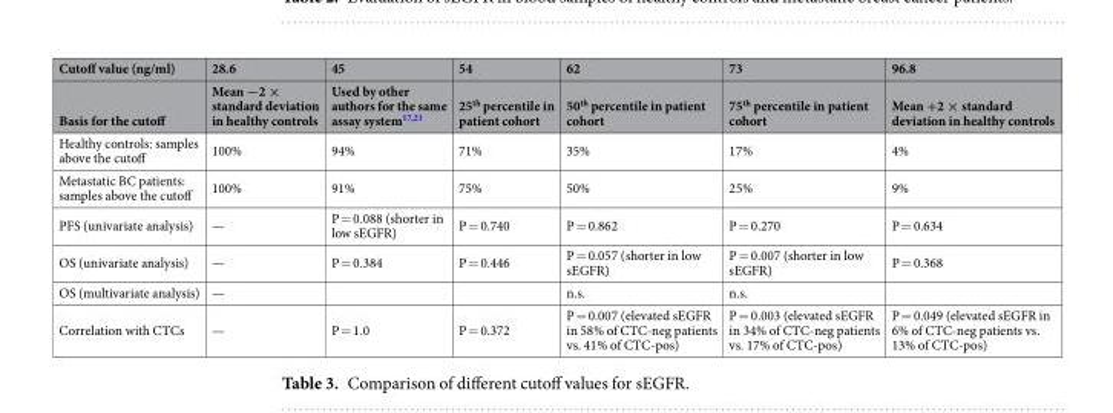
<table><thead><tr><td rowspan="2">Cutoff value (ng/ml) Basis for the cutoff</td><td rowspan="2">28.6 Mean −2 × standard deviation in healthy controls</td><td rowspan="2">45 Used by other authors for the same assay system<sup>17,21</sup></td><td rowspan="2">54 25<sup>th</sup> percentile in patient cohort</td><td rowspan="2">62 50<sup>th</sup> percentile in patient cohort</td><td rowspan="2">73 75<sup>th</sup> percentile in patient cohort</td><td rowspan="2">96.8 Mean +2 × standard deviation in healthy controls</td></tr><tr></tr></thead><tbody><tr><td>Healthy controls: samples above the cutoff</td><td>100%</td><td>94%</td><td>71%</td><td>35%</td><td>17%</td><td>4%</td></tr><tr><td>Metastatic BC patients: samples above the cutoff</td><td>100%</td><td>91%</td><td>75%</td><td>50%</td><td>25%</td><td>9%</td></tr><tr><td>PFS (univariate analysis)</td><td>—</td><td>P = 0.088 (shorter in low sEGFR)</td><td>P = 0.740</td><td>P = 0.862</td><td>P = 0.270</td><td>P = 0.634</td></tr><tr><td>OS (univariate analysis)</td><td>—</td><td>P = 0.384</td><td>P = 0.446</td><td>P = 0.057 (shorter in low sEGFR)</td><td>P = 0.007 (shorter in low sEGFR)</td><td>P = 0.368</td></tr><tr><td>OS (multivariate analysis)</td><td>—</td><td></td><td></td><td>n.s.</td><td>n.s.</td><td></td></tr><tr><td>Correlation with CTCs</td><td>—</td><td>P = 1.0</td><td>P = 0.372</td><td>P = 0.007 (elevated sEGFR in 58% of CTC-neg patients vs. 41% of CTC-pos)</td><td>P = 0.003 (elevated sEGFR in 34% of CTC-neg patients vs. 17% of CTC-pos)</td><td>P = 0.049 (elevated sEGFR in 6% of CTC-neg patients vs. 13% of CTC-pos)</td></tr></tbody></table>